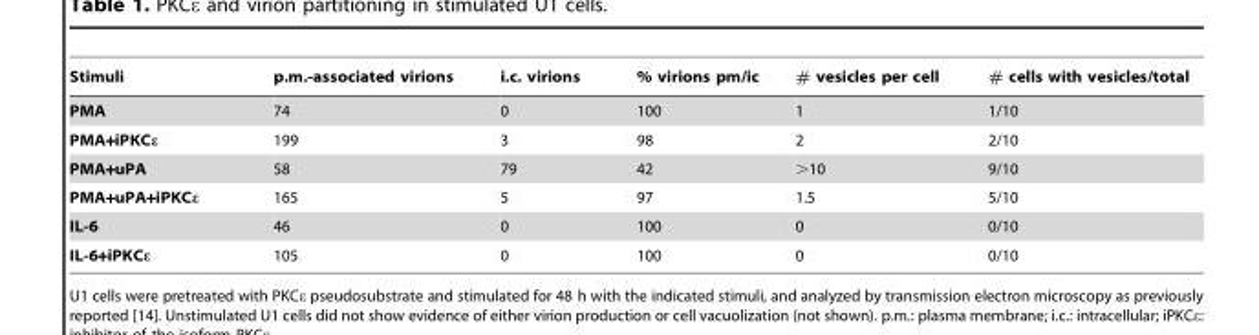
<table><thead><tr><td>Stimuli</td><td>p.m.-associated virions</td><td>i.c. virions</td><td>% virions pm/ic</td><td># vesicles per cell</td><td># cells with vesicles/total</td></tr></thead><tbody><tr><td>PMA</td><td>74</td><td>0</td><td>100</td><td>1</td><td>1/10</td></tr><tr><td>PMA+iPKCε</td><td>199</td><td>3</td><td>98</td><td>2</td><td>2/10</td></tr><tr><td>PMA+uPA</td><td>58</td><td>79</td><td>42</td><td>&gt;10</td><td>9/10</td></tr><tr><td>PMA+uPA+iPKCε</td><td>165</td><td>5</td><td>97</td><td>1.5</td><td>5/10</td></tr><tr><td>IL-6</td><td>46</td><td>0</td><td>100</td><td>0</td><td>0/10</td></tr><tr><td>IL-6+iPKCε</td><td>105</td><td>0</td><td>100</td><td>0</td><td>0/10</td></tr></tbody></table>